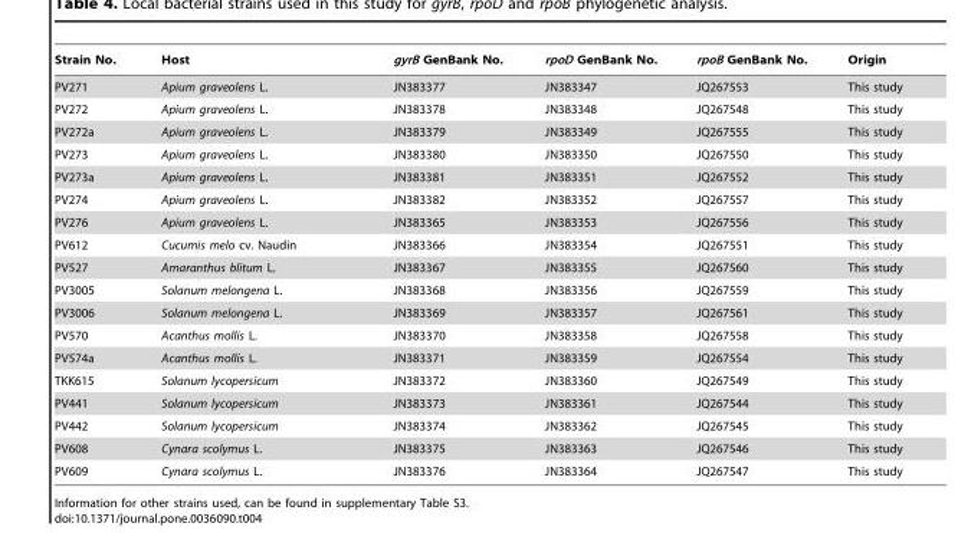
<table><thead><tr><td>Strain No.</td><td>Host</td><td>gyrB GenBank No.</td><td>rpoD GenBank No.</td><td>rpoB GenBank No.</td><td>Origin</td></tr></thead><tbody><tr><td>PV271</td><td>Apium graveolens L.</td><td>JN383377</td><td>JN383347</td><td>JQ267553</td><td>This study</td></tr><tr><td>PV272</td><td>Apium graveolens L.</td><td>JN383378</td><td>JN383348</td><td>JQ267548</td><td>This study</td></tr><tr><td>PV272a</td><td>Apium graveolens L.</td><td>JN383379</td><td>JN383349</td><td>JQ267555</td><td>This study</td></tr><tr><td>PV273</td><td>Apium graveolens L.</td><td>JN383380</td><td>JN383350</td><td>JQ267550</td><td>This study</td></tr><tr><td>PV273a</td><td>Apium graveolens L.</td><td>JN383381</td><td>JN383351</td><td>JQ267552</td><td>This study</td></tr><tr><td>PV274</td><td>Apium graveolens L.</td><td>JN383382</td><td>JN383352</td><td>JQ267557</td><td>This study</td></tr><tr><td>PV276</td><td>Apium graveolens L.</td><td>JN383365</td><td>JN383353</td><td>JQ267556</td><td>This study</td></tr><tr><td>PV612</td><td>Cucumis melo cv. Naudin</td><td>JN383366</td><td>JN383354</td><td>JQ267551</td><td>This study</td></tr><tr><td>PV527</td><td>Amaranthus blitum L.</td><td>JN383367</td><td>JN383355</td><td>JQ267560</td><td>This study</td></tr><tr><td>PV3005</td><td>Solanum melongena L.</td><td>JN383368</td><td>JN383356</td><td>JQ267559</td><td>This study</td></tr><tr><td>PV3006</td><td>Solanum melongena L.</td><td>JN383369</td><td>JN383357</td><td>JQ267561</td><td>This study</td></tr><tr><td>PV570</td><td>Acanthus mollis L.</td><td>JN383370</td><td>JN383358</td><td>JQ267558</td><td>This study</td></tr><tr><td>PV574a</td><td>Acanthus mollis L.</td><td>JN383371</td><td>JN383359</td><td>JQ267554</td><td>This study</td></tr><tr><td>TKK615</td><td>Solanum lycopersicum</td><td>JN383372</td><td>JN383360</td><td>JQ267549</td><td>This study</td></tr><tr><td>PV441</td><td>Solanum lycopersicum</td><td>JN383373</td><td>JN383361</td><td>JQ267544</td><td>This study</td></tr><tr><td>PV442</td><td>Solanum lycopersicum</td><td>JN383374</td><td>JN383362</td><td>JQ267545</td><td>This study</td></tr><tr><td>PV608</td><td>Cynara scolymus L.</td><td>JN383375</td><td>JN383363</td><td>JQ267546</td><td>This study</td></tr><tr><td>PV609</td><td>Cynara scolymus L.</td><td>JN383376</td><td>JN383364</td><td>JQ267547</td><td>This study</td></tr></tbody></table>